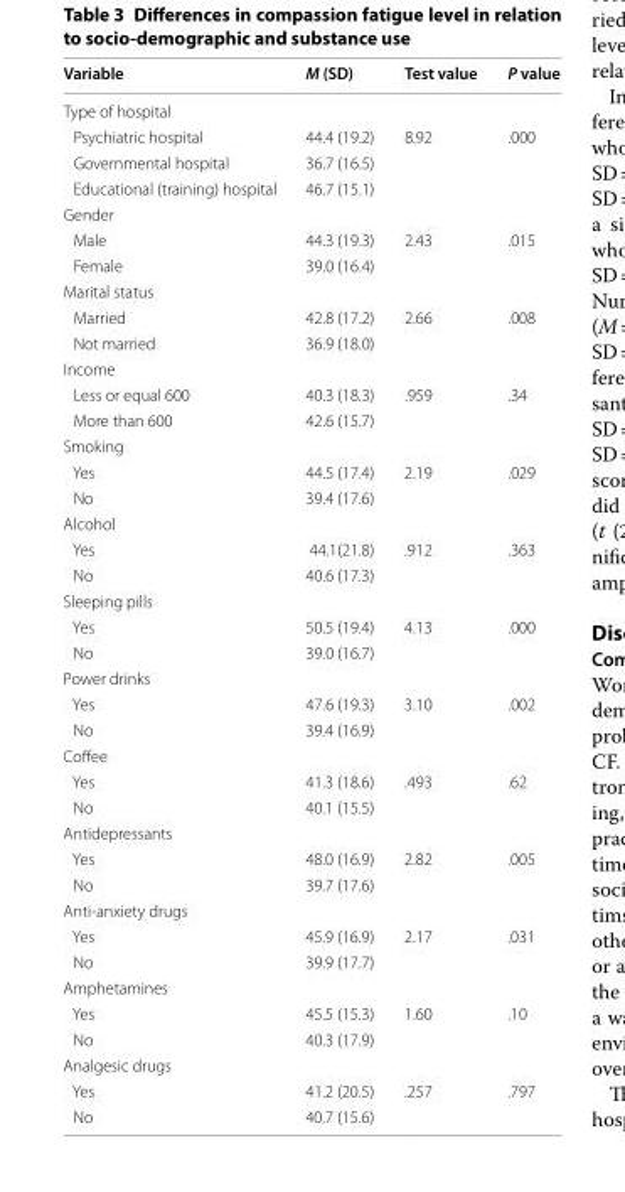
<table><thead><tr><td>Variable</td><td>M (SD)</td><td>Test value</td><td>P value</td></tr></thead><tbody><tr><td colspan="4">Type of hospital</td></tr><tr><td>Psychiatric hospital</td><td>44.4 (19.2)</td><td>8.92</td><td>.000</td></tr><tr><td>Governmental hospital</td><td>36.7 (16.5)</td><td></td><td></td></tr><tr><td>Educational (training) hospital</td><td>46.7 (15.1)</td><td></td><td></td></tr><tr><td colspan="4">Gender</td></tr><tr><td>Male</td><td>44.3 (19.3)</td><td>2.43</td><td>.015</td></tr><tr><td>Female</td><td>39.0 (16.4)</td><td></td><td></td></tr><tr><td colspan="4">Marital status</td></tr><tr><td>Married</td><td>42.8 (17.2)</td><td>2.66</td><td>.008</td></tr><tr><td>Not married</td><td>36.9 (18.0)</td><td></td><td></td></tr><tr><td colspan="4">Income</td></tr><tr><td>Less or equal 600</td><td>40.3 (18.3)</td><td>.959</td><td>.34</td></tr><tr><td>More than 600</td><td>42.6 (15.7)</td><td></td><td></td></tr><tr><td colspan="4">Smoking</td></tr><tr><td>Yes</td><td>44.5 (17.4)</td><td>2.19</td><td>.029</td></tr><tr><td>No</td><td>39.4 (17.6)</td><td></td><td></td></tr><tr><td colspan="4">Alcohol</td></tr><tr><td>Yes</td><td>44.1(21.8)</td><td>.912</td><td>.363</td></tr><tr><td>No</td><td>40.6 (17.3)</td><td></td><td></td></tr><tr><td colspan="4">Sleeping pills</td></tr><tr><td>Yes</td><td>50.5 (19.4)</td><td>4.13</td><td>.000</td></tr><tr><td>No</td><td>39.0 (16.7)</td><td></td><td></td></tr><tr><td colspan="4">Power drinks</td></tr><tr><td>Yes</td><td>47.6 (19.3)</td><td>3.10</td><td>.002</td></tr><tr><td>No</td><td>39.4 (16.9)</td><td></td><td></td></tr><tr><td colspan="4">Coffee</td></tr><tr><td>Yes</td><td>41.3 (18.6)</td><td>.493</td><td>.62</td></tr><tr><td>No</td><td>40.1 (15.5)</td><td></td><td></td></tr><tr><td colspan="4">Antidepressants</td></tr><tr><td>Yes</td><td>48.0 (16.9)</td><td>2.82</td><td>.005</td></tr><tr><td>No</td><td>39.7 (17.6)</td><td></td><td></td></tr><tr><td colspan="4">Anti-anxiety drugs</td></tr><tr><td>Yes</td><td>45.9 (16.9)</td><td>2.17</td><td>.031</td></tr><tr><td>No</td><td>39.9 (17.7)</td><td></td><td></td></tr><tr><td colspan="4">Amphetamines</td></tr><tr><td>Yes</td><td>45.5 (15.3)</td><td>1.60</td><td>.10</td></tr><tr><td>No</td><td>40.3 (17.9)</td><td></td><td></td></tr><tr><td colspan="4">Analgesic drugs</td></tr><tr><td>Yes</td><td>41.2 (20.5)</td><td>.257</td><td>.797</td></tr><tr><td>No</td><td>40.7 (15.6)</td><td></td><td></td></tr></tbody></table>